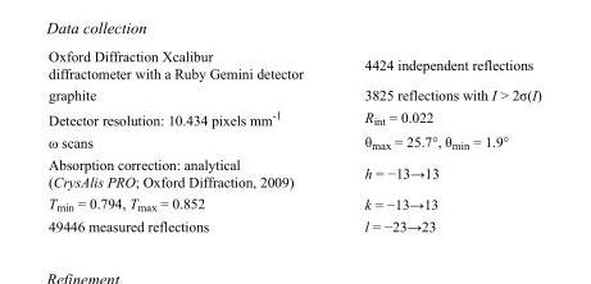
<table><tbody><tr><td>Oxford Diffraction Xcalibur diffractometer with a Ruby Gemini detector</td><td>4424 independent reflections</td></tr><tr><td>graphite</td><td>3825 reflections with I &gt; 2σ(I)</td></tr><tr><td>Detector resolution: 10.434 pixels mm<sup>-1</sup></td><td>R<sub>int</sub> = 0.022</td></tr><tr><td>ω scans</td><td>θ<sub>max</sub> = 25.7°, θ<sub>min</sub> = 1.9°</td></tr><tr><td>Absorption correction: analytical (CrysAlis PRO; Oxford Diffraction, 2009)</td><td>h = −13→13</td></tr><tr><td>T<sub>min</sub> = 0.794, T<sub>max</sub> = 0.852</td><td>k = −13→13</td></tr><tr><td>49446 measured reflections</td><td>l = −23→23</td></tr></tbody></table>